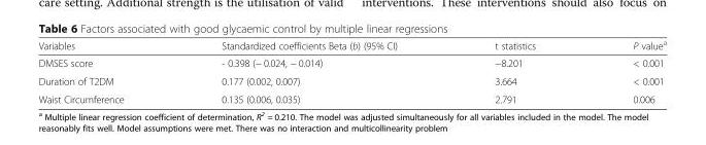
<table><thead><tr><td>Variables</td><td>Standardized coefficients Beta (b) (95% CI)</td><td>t statistics</td><td>P value<sup>a</sup></td></tr></thead><tbody><tr><td>DMSES score</td><td>- 0.398 (− 0.024, − 0.014)</td><td>−8.201</td><td>&lt; 0.001</td></tr><tr><td>Duration of T2DM</td><td>0.177 (0.002, 0.007)</td><td>3.664</td><td>&lt; 0.001</td></tr><tr><td>Waist Circumference</td><td>0.135 (0.006, 0.035)</td><td>2.791</td><td>0.006</td></tr></tbody></table>